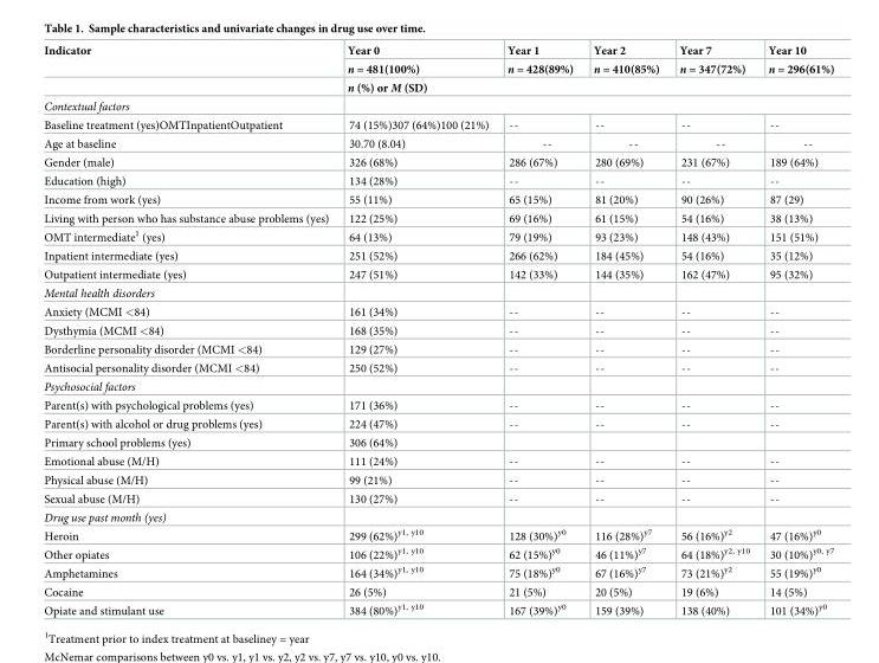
<table><thead><tr><td rowspan="3">Indicator</td><td rowspan="2">Year 0 n = 481(100%)</td><td rowspan="2">Year 1 n = 428(89%)</td><td rowspan="2">Year 2 n = 410(85%)</td><td rowspan="2">Year 7 n = 347(72%)</td><td rowspan="2">Year 10 n = 296(61%)</td></tr><tr></tr><tr><td colspan="5">n (%) or M (SD)</td></tr></thead><tbody><tr><td colspan="6">Contextual factors</td></tr><tr><td>Baseline treatment (yes)OMTInpatientOutpatient</td><td>74 (15%)307 (64%)100 (21%)</td><td>--</td><td>--</td><td>--</td><td>--</td></tr><tr><td>Age at baseline</td><td>30.70 (8.04)</td><td>--</td><td>--</td><td>--</td><td>--</td></tr><tr><td>Gender (male)</td><td>326 (68%)</td><td>286 (67%)</td><td>280 (69%)</td><td>231 (67%)</td><td>189 (64%)</td></tr><tr><td>Education (high)</td><td>134 (28%)</td><td>--</td><td>--</td><td>--</td><td>--</td></tr><tr><td>Income from work (yes)</td><td>55 (11%)</td><td>65 (15%)</td><td>81 (20%)</td><td>90 (26%)</td><td>87 (29)</td></tr><tr><td>Living with person who has substance abuse problems (yes)</td><td>122 (25%)</td><td>69 (16%)</td><td>61 (15%)</td><td>54 (16%)</td><td>38 (13%)</td></tr><tr><td>OMT intermediate<sup>1</sup> (yes)</td><td>64 (13%)</td><td>79 (19%)</td><td>93 (23%)</td><td>148 (43%)</td><td>151 (51%)</td></tr><tr><td>Inpatient intermediate (yes)</td><td>251 (52%)</td><td>266 (62%)</td><td>184 (45%)</td><td>54 (16%)</td><td>35 (12%)</td></tr><tr><td>Outpatient intermediate (yes)</td><td>247 (51%)</td><td>142 (33%)</td><td>144 (35%)</td><td>162 (47%)</td><td>95 (32%)</td></tr><tr><td colspan="6">Mental health disorders</td></tr><tr><td>Anxiety (MCMI &lt;84)</td><td>161 (34%)</td><td>--</td><td>--</td><td>--</td><td>--</td></tr><tr><td>Dysthymia (MCMI &lt;84)</td><td>168 (35%)</td><td>--</td><td>--</td><td>--</td><td>--</td></tr><tr><td>Borderline personality disorder (MCMI &lt;84)</td><td>129 (27%)</td><td>--</td><td>--</td><td>--</td><td>--</td></tr><tr><td>Antisocial personality disorder (MCMI &lt;84)</td><td>250 (52%)</td><td>--</td><td>--</td><td>--</td><td>--</td></tr><tr><td colspan="6">Psychosocial factors</td></tr><tr><td>Parent(s) with psychological problems (yes)</td><td>171 (36%)</td><td>--</td><td>--</td><td>--</td><td>--</td></tr><tr><td>Parent(s) with alcohol or drug problems (yes)</td><td>224 (47%)</td><td>--</td><td>--</td><td>--</td><td>--</td></tr><tr><td>Primary school problems (yes)</td><td>306 (64%)</td><td></td><td></td><td></td><td></td></tr><tr><td>Emotional abuse (M/H)</td><td>111 (24%)</td><td>--</td><td>--</td><td>--</td><td>--</td></tr><tr><td>Physical abuse (M/H)</td><td>99 (21%)</td><td>--</td><td>--</td><td>--</td><td>--</td></tr><tr><td>Sexual abuse (M/H)</td><td>130 (27%)</td><td>--</td><td>--</td><td>--</td><td>--</td></tr><tr><td colspan="6">Drug use past month (yes)</td></tr><tr><td>Heroin</td><td>299 (62%)<sup>y1, y10</sup></td><td>128 (30%)<sup>y0</sup></td><td>116 (28%)<sup>y7</sup></td><td>56 (16%)<sup>y2</sup></td><td>47 (16%)<sup>y0</sup></td></tr><tr><td>Other opiates</td><td>106 (22%)<sup>y1, y10</sup></td><td>62 (15%)<sup>y0</sup></td><td>46 (11%)<sup>y7</sup></td><td>64 (18%)<sup>y2, y10</sup></td><td>30 (10%)<sup>y0, y7</sup></td></tr><tr><td>Amphetamines</td><td>164 (34%)<sup>y1, y10</sup></td><td>75 (18%)<sup>y0</sup></td><td>67 (16%)<sup>y7</sup></td><td>73 (21%)<sup>y2</sup></td><td>55 (19%)<sup>y0</sup></td></tr><tr><td>Cocaine</td><td>26 (5%)</td><td>21 (5%)</td><td>20 (5%)</td><td>19 (6%)</td><td>14 (5%)</td></tr><tr><td>Opiate and stimulant use</td><td>384 (80%)<sup>y1, y10</sup></td><td>167 (39%)<sup>y0</sup></td><td>159 (39%)</td><td>138 (40%)</td><td>101 (34%)<sup>y0</sup></td></tr></tbody></table>